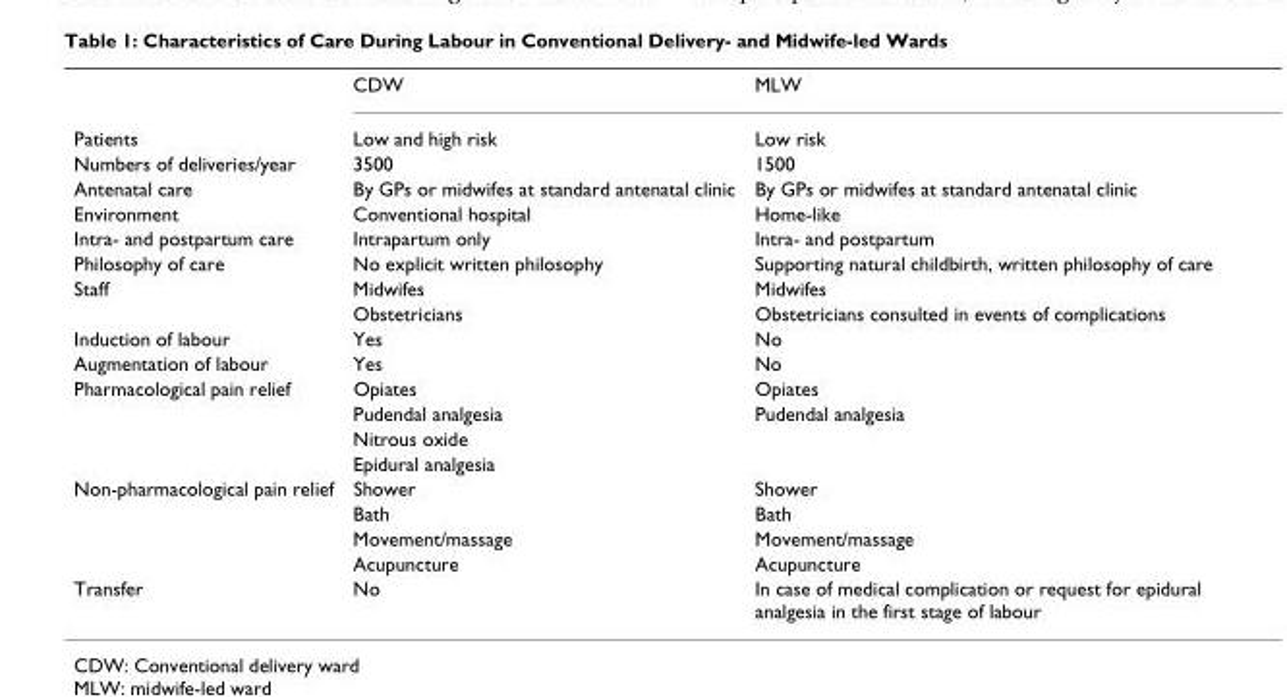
<table><thead><tr><td></td><td>CDW</td><td>MLW</td></tr></thead><tbody><tr><td>Patients</td><td>Low and high risk</td><td>Low risk</td></tr><tr><td>Numbers of deliveries/year</td><td>3500</td><td>1500</td></tr><tr><td>Antenatal care</td><td>By GPs or midwifes at standard antenatal clinic</td><td>By GPs or midwifes at standard antenatal clinic</td></tr><tr><td>Environment</td><td>Conventional hospital</td><td>Home-like</td></tr><tr><td>Intra- and postpartum care</td><td>Intrapartum only</td><td>Intra- and postpartum</td></tr><tr><td>Philosophy of care</td><td>No explicit written philosophy</td><td>Supporting natural childbirth, written philosophy of care</td></tr><tr><td rowspan="2">Staff</td><td>Midwifes</td><td>Midwifes</td></tr><tr><td>Obstetricians</td><td>Obstetricians consulted in events of complications</td></tr><tr><td>Induction of labour</td><td>Yes</td><td>No</td></tr><tr><td>Augmentation of labour</td><td>Yes</td><td>No</td></tr><tr><td rowspan="4">Pharmacological pain relief</td><td>Opiates</td><td>Opiates</td></tr><tr><td>Pudendal analgesia</td><td>Pudendal analgesia</td></tr><tr><td>Nitrous oxide</td><td></td></tr><tr><td>Epidural analgesia</td><td></td></tr><tr><td rowspan="4">Non-pharmacological pain relief</td><td>Shower</td><td>Shower</td></tr><tr><td>Bath</td><td>Bath</td></tr><tr><td>Movement/massage</td><td>Movement/massage</td></tr><tr><td>Acupuncture</td><td>Acupuncture</td></tr><tr><td>Transfer</td><td>No</td><td>In case of medical complication or request for epidural analgesia in the first stage of labour</td></tr></tbody></table>